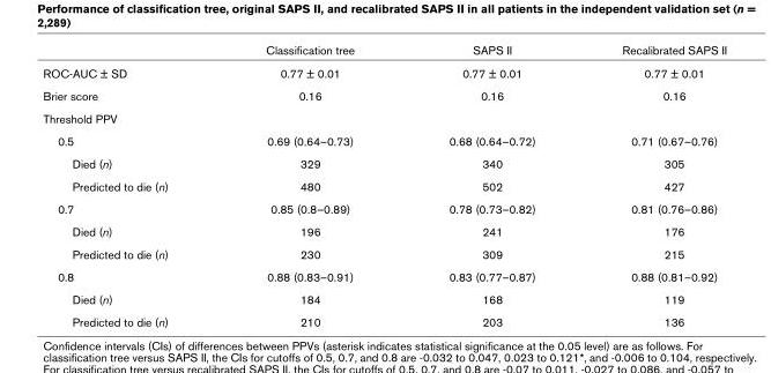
<table><thead><tr><td></td><td>Classification tree</td><td>SAPS II</td><td>Recalibrated SAPS II</td></tr></thead><tbody><tr><td>ROC-AUC ± SD</td><td>0.77 ± 0.01</td><td>0.77 ± 0.01</td><td>0.77 ± 0.01</td></tr><tr><td>Brier score</td><td>0.16</td><td>0.16</td><td>0.16</td></tr><tr><td colspan="4">Threshold PPV</td></tr><tr><td>0.5</td><td>0.69 (0.64–0.73)</td><td>0.68 (0.64–0.72)</td><td>0.71 (0.67–0.76)</td></tr><tr><td>Died (n)</td><td>329</td><td>340</td><td>305</td></tr><tr><td>Predicted to die (n)</td><td>480</td><td>502</td><td>427</td></tr><tr><td>0.7</td><td>0.85 (0.8–0.89)</td><td>0.78 (0.73–0.82)</td><td>0.81 (0.76–0.86)</td></tr><tr><td>Died (n)</td><td>196</td><td>241</td><td>176</td></tr><tr><td>Predicted to die (n)</td><td>230</td><td>309</td><td>215</td></tr><tr><td>0.8</td><td>0.88 (0.83–0.91)</td><td>0.83 (0.77–0.87)</td><td>0.88 (0.81–0.92)</td></tr><tr><td>Died (n)</td><td>184</td><td>168</td><td>119</td></tr><tr><td>Predicted to die (n)</td><td>210</td><td>203</td><td>136</td></tr></tbody></table>